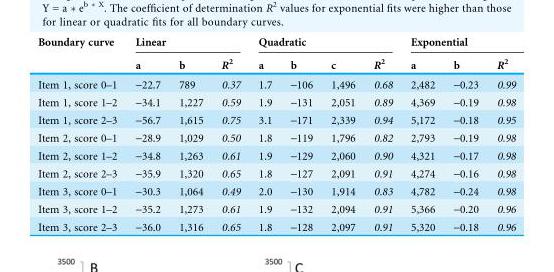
<table><thead><tr><td rowspan="2">Boundary curve</td><td colspan="3">Linear</td><td colspan="4">Quadratic</td><td colspan="3">Exponential</td></tr><tr><td>a</td><td>b</td><td>R<sup>2</sup></td><td>a</td><td>b</td><td>c</td><td>R<sup>2</sup></td><td>a</td><td>b</td><td>R<sup>2</sup></td></tr></thead><tbody><tr><td>Item 1, score 0–1</td><td>-22.7</td><td>789</td><td>0.37</td><td>1.7</td><td>-106</td><td>1,496</td><td>0.68</td><td>2,482</td><td>-0.23</td><td>0.99</td></tr><tr><td>Item 1, score 1–2</td><td>-34.1</td><td>1,227</td><td>0.59</td><td>1.9</td><td>-131</td><td>2,051</td><td>0.89</td><td>4,369</td><td>-0.19</td><td>0.98</td></tr><tr><td>Item 1, score 2–3</td><td>-56.7</td><td>1,615</td><td>0.75</td><td>3.1</td><td>-171</td><td>2,339</td><td>0.94</td><td>5,172</td><td>-0.18</td><td>0.95</td></tr><tr><td>Item 2, score 0–1</td><td>-28.9</td><td>1,029</td><td>0.50</td><td>1.8</td><td>-119</td><td>1,796</td><td>0.82</td><td>2,793</td><td>-0.19</td><td>0.98</td></tr><tr><td>Item 2, score 1–2</td><td>-34.8</td><td>1,263</td><td>0.61</td><td>1.9</td><td>-129</td><td>2,060</td><td>0.90</td><td>4,321</td><td>-0.17</td><td>0.98</td></tr><tr><td>Item 2, score 2–3</td><td>-35.9</td><td>1,320</td><td>0.65</td><td>1.8</td><td>-127</td><td>2,091</td><td>0.91</td><td>4,274</td><td>-0.16</td><td>0.98</td></tr><tr><td>Item 3, score 0–1</td><td>-30.3</td><td>1,064</td><td>0.49</td><td>2.0</td><td>-130</td><td>1,914</td><td>0.83</td><td>4,782</td><td>-0.24</td><td>0.98</td></tr><tr><td>Item 3, score 1–2</td><td>-35.2</td><td>1,273</td><td>0.61</td><td>1.9</td><td>-132</td><td>2,094</td><td>0.91</td><td>5,366</td><td>-0.20</td><td>0.96</td></tr><tr><td>Item 3, score 2–3</td><td>-36.0</td><td>1,316</td><td>0.65</td><td>1.8</td><td>-128</td><td>2,097</td><td>0.91</td><td>5,320</td><td>-0.18</td><td>0.96</td></tr></tbody></table>